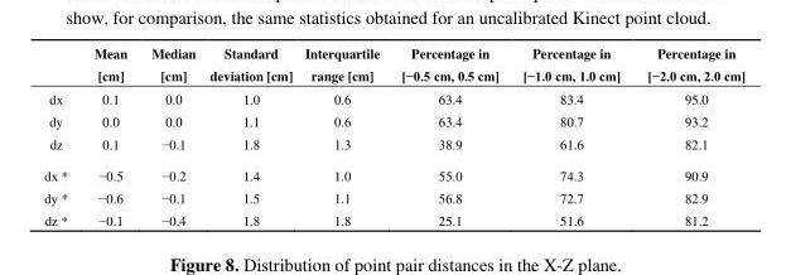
<table><thead><tr><td></td><td>Mean [cm]</td><td>Median [cm]</td><td>Standard deviation [cm]</td><td>Interquartile range [cm]</td><td>Percentage in [−0.5 cm, 0.5 cm]</td><td>Percentage in [−1.0 cm, 1.0 cm]</td><td>Percentage in [−2.0 cm, 2.0 cm]</td></tr></thead><tbody><tr><td>dx</td><td>0.1</td><td>0.0</td><td>1.0</td><td>0.6</td><td>63.4</td><td>83.4</td><td>95.0</td></tr><tr><td>dy</td><td>0.0</td><td>0.0</td><td>1.1</td><td>0.6</td><td>63.4</td><td>80.7</td><td>93.2</td></tr><tr><td>dz</td><td>0.1</td><td>−0.1</td><td>1.8</td><td>1.3</td><td>38.9</td><td>61.6</td><td>82.1</td></tr><tr><td>dx *</td><td>−0.5</td><td>−0.2</td><td>1.4</td><td>1.0</td><td>55.0</td><td>74.3</td><td>90.9</td></tr><tr><td>dy *</td><td>−0.6</td><td>−0.1</td><td>1.5</td><td>1.1</td><td>56.8</td><td>72.7</td><td>82.9</td></tr><tr><td>dz *</td><td>−0.1</td><td>−0.4</td><td>1.8</td><td>1.8</td><td>25.1</td><td>51.6</td><td>81.2</td></tr></tbody></table>